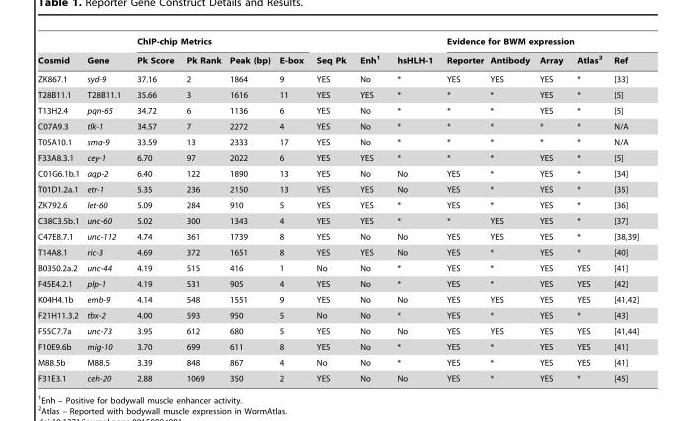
<table><thead><tr><td rowspan="2">Cosmid</td><td rowspan="2">Gene</td><td colspan="4">ChIP-chip Metrics</td><td rowspan="2">Seq Pk</td><td rowspan="2">Enh<sup>1</sup></td><td rowspan="2">hsHLH-1</td><td colspan="5">Evidence for BWM expression</td></tr><tr><td>Pk Score</td><td>Pk Rank</td><td>Peak (bp)</td><td>E-box</td><td>Reporter</td><td>Antibody</td><td>Array</td><td>Atlas<sup>2</sup></td><td>Ref</td></tr></thead><tbody><tr><td>ZK867.1</td><td>syd-9</td><td>37.16</td><td>2</td><td>1864</td><td>9</td><td>YES</td><td>No</td><td>*</td><td>YES</td><td>YES</td><td>YES</td><td>*</td><td>[33]</td></tr><tr><td>T28B11.1</td><td>T28B11.1</td><td>35.66</td><td>3</td><td>1616</td><td>11</td><td>YES</td><td>YES</td><td>*</td><td>*</td><td>*</td><td>YES</td><td>*</td><td>[5]</td></tr><tr><td>T13H2.4</td><td>pqn-65</td><td>34.72</td><td>6</td><td>1136</td><td>6</td><td>YES</td><td>No</td><td>*</td><td>*</td><td>*</td><td>YES</td><td>*</td><td>[5]</td></tr><tr><td>C07A9.3</td><td>tlk-1</td><td>34.57</td><td>7</td><td>2272</td><td>4</td><td>YES</td><td>No</td><td>*</td><td>*</td><td>*</td><td>*</td><td>*</td><td>N/A</td></tr><tr><td>T05A10.1</td><td>sma-9</td><td>33.59</td><td>13</td><td>2333</td><td>17</td><td>YES</td><td>No</td><td>*</td><td>*</td><td>*</td><td>*</td><td>*</td><td>N/A</td></tr><tr><td>F33A8.3.1</td><td>cey-1</td><td>6.70</td><td>97</td><td>2022</td><td>6</td><td>YES</td><td>YES</td><td>*</td><td>*</td><td>*</td><td>YES</td><td>*</td><td>[5]</td></tr><tr><td>C01G6.1b.1</td><td>aqp-2</td><td>6.40</td><td>122</td><td>1890</td><td>13</td><td>YES</td><td>No</td><td>No</td><td>YES</td><td>*</td><td>YES</td><td>*</td><td>[34]</td></tr><tr><td>T01D1.2a.1</td><td>etr-1</td><td>5.35</td><td>236</td><td>2150</td><td>13</td><td>YES</td><td>YES</td><td>No</td><td>YES</td><td>*</td><td>YES</td><td>*</td><td>[35]</td></tr><tr><td>ZK792.6</td><td>let-60</td><td>5.09</td><td>284</td><td>910</td><td>5</td><td>YES</td><td>YES</td><td>*</td><td>YES</td><td>*</td><td>YES</td><td>*</td><td>[36]</td></tr><tr><td>C38C3.5b.1</td><td>unc-60</td><td>5.02</td><td>300</td><td>1343</td><td>4</td><td>YES</td><td>YES</td><td>*</td><td>*</td><td>YES</td><td>YES</td><td>*</td><td>[37]</td></tr><tr><td>C47E8.7.1</td><td>unc-112</td><td>4.74</td><td>361</td><td>1739</td><td>8</td><td>YES</td><td>No</td><td>No</td><td>YES</td><td>YES</td><td>YES</td><td>*</td><td>[38,39]</td></tr><tr><td>T14A8.1</td><td>ric-3</td><td>4.69</td><td>372</td><td>1651</td><td>8</td><td>YES</td><td>YES</td><td>No</td><td>YES</td><td>*</td><td>YES</td><td>*</td><td>[40]</td></tr><tr><td>B0350.2a.2</td><td>unc-44</td><td>4.19</td><td>515</td><td>416</td><td>1</td><td>No</td><td>No</td><td>*</td><td>YES</td><td>*</td><td>YES</td><td>YES</td><td>[41]</td></tr><tr><td>F45E4.2.1</td><td>plp-1</td><td>4.19</td><td>531</td><td>905</td><td>4</td><td>YES</td><td>No</td><td>*</td><td>YES</td><td>*</td><td>YES</td><td>YES</td><td>[42]</td></tr><tr><td>K04H4.1b</td><td>emb-9</td><td>4.14</td><td>548</td><td>1551</td><td>9</td><td>YES</td><td>No</td><td>No</td><td>YES</td><td>YES</td><td>YES</td><td>YES</td><td>[41,42]</td></tr><tr><td>F21H11.3.2</td><td>tbx-2</td><td>4.00</td><td>593</td><td>950</td><td>5</td><td>No</td><td>No</td><td>*</td><td>YES</td><td>*</td><td>YES</td><td>*</td><td>[43]</td></tr><tr><td>F55C7.7a</td><td>unc-73</td><td>3.95</td><td>612</td><td>680</td><td>5</td><td>YES</td><td>No</td><td>No</td><td>YES</td><td>YES</td><td>YES</td><td>YES</td><td>[41,44]</td></tr><tr><td>F10E9.6b</td><td>mig-10</td><td>3.70</td><td>699</td><td>611</td><td>8</td><td>YES</td><td>No</td><td>*</td><td>YES</td><td>*</td><td>YES</td><td>YES</td><td>[41]</td></tr><tr><td>M88.5b</td><td>M88.5</td><td>3.39</td><td>848</td><td>867</td><td>4</td><td>No</td><td>No</td><td>*</td><td>YES</td><td>*</td><td>YES</td><td>YES</td><td>[41]</td></tr><tr><td>F31E3.1</td><td>ceh-20</td><td>2.88</td><td>1069</td><td>350</td><td>2</td><td>YES</td><td>No</td><td>No</td><td>YES</td><td>*</td><td>YES</td><td>*</td><td>[45]</td></tr></tbody></table>